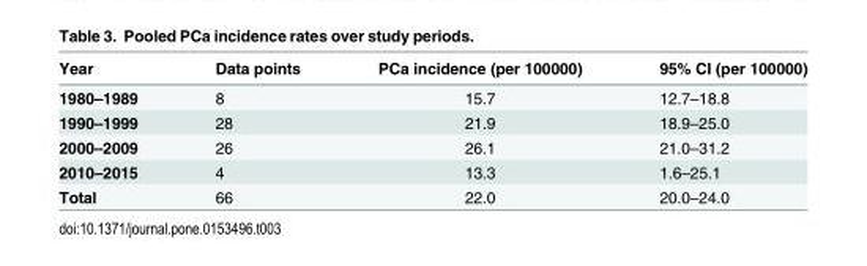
<table><thead><tr><td>Year</td><td>Data points</td><td>PCa incidence (per 100000)</td><td>95% CI (per 100000)</td></tr></thead><tbody><tr><td>1980–1989</td><td>8</td><td>15.7</td><td>12.7–18.8</td></tr><tr><td>1990–1999</td><td>28</td><td>21.9</td><td>18.9–25.0</td></tr><tr><td>2000–2009</td><td>26</td><td>26.1</td><td>21.0–31.2</td></tr><tr><td>2010–2015</td><td>4</td><td>13.3</td><td>1.6–25.1</td></tr><tr><td>Total</td><td>66</td><td>22.0</td><td>20.0–24.0</td></tr></tbody></table>